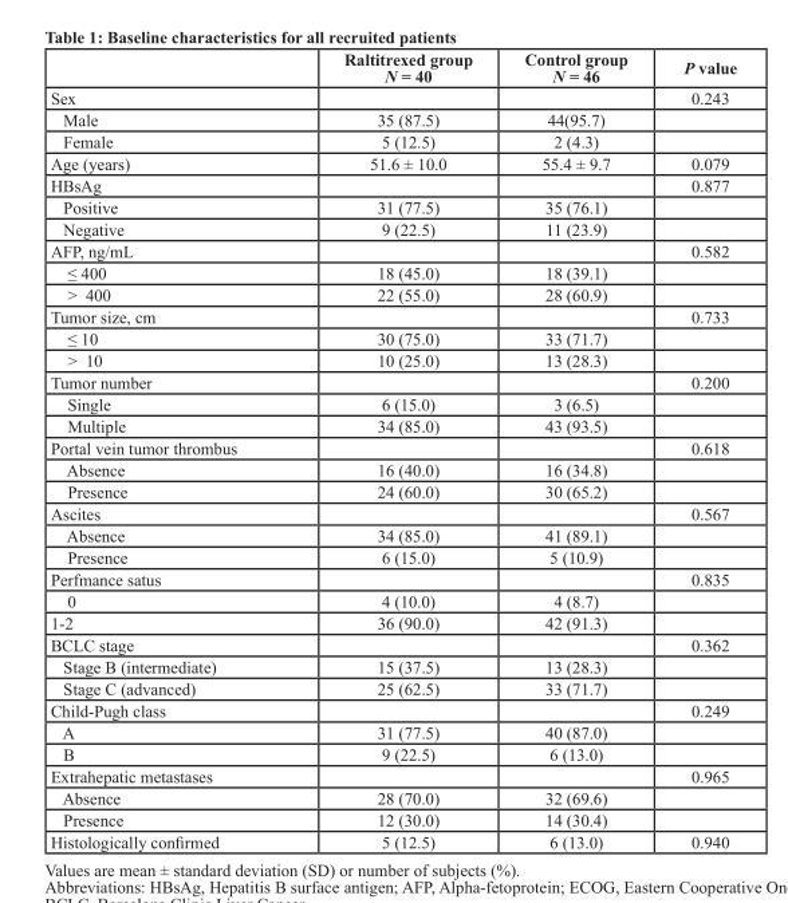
<table><thead><tr><td></td><td>Raltitrexed group N = 40</td><td>Control group N = 46</td><td>P value</td></tr></thead><tbody><tr><td>Sex</td><td></td><td></td><td>0.243</td></tr><tr><td>Male</td><td>35 (87.5)</td><td>44(95.7)</td><td></td></tr><tr><td>Female</td><td>5 (12.5)</td><td>2 (4.3)</td><td></td></tr><tr><td>Age (years)</td><td>51.6 ± 10.0</td><td>55.4 ± 9.7</td><td>0.079</td></tr><tr><td>HBsAg</td><td></td><td></td><td>0.877</td></tr><tr><td>Positive</td><td>31 (77.5)</td><td>35 (76.1)</td><td></td></tr><tr><td>Negative</td><td>9 (22.5)</td><td>11 (23.9)</td><td></td></tr><tr><td>AFP, ng/mL</td><td></td><td></td><td>0.582</td></tr><tr><td>≤ 400</td><td>18 (45.0)</td><td>18 (39.1)</td><td></td></tr><tr><td>&gt; 400</td><td>22 (55.0)</td><td>28 (60.9)</td><td></td></tr><tr><td>Tumor size, cm</td><td></td><td></td><td>0.733</td></tr><tr><td>≤ 10</td><td>30 (75.0)</td><td>33 (71.7)</td><td></td></tr><tr><td>&gt; 10</td><td>10 (25.0)</td><td>13 (28.3)</td><td></td></tr><tr><td>Tumor number</td><td></td><td></td><td>0.200</td></tr><tr><td>Single</td><td>6 (15.0)</td><td>3 (6.5)</td><td></td></tr><tr><td>Multiple</td><td>34 (85.0)</td><td>43 (93.5)</td><td></td></tr><tr><td>Portal vein tumor thrombus</td><td></td><td></td><td>0.618</td></tr><tr><td>Absence</td><td>16 (40.0)</td><td>16 (34.8)</td><td></td></tr><tr><td>Presence</td><td>24 (60.0)</td><td>30 (65.2)</td><td></td></tr><tr><td>Ascites</td><td></td><td></td><td>0.567</td></tr><tr><td>Absence</td><td>34 (85.0)</td><td>41 (89.1)</td><td></td></tr><tr><td>Presence</td><td>6 (15.0)</td><td>5 (10.9)</td><td></td></tr><tr><td>Perfmance satus</td><td></td><td></td><td>0.835</td></tr><tr><td>0</td><td>4 (10.0)</td><td>4 (8.7)</td><td></td></tr><tr><td>1-2</td><td>36 (90.0)</td><td>42 (91.3)</td><td></td></tr><tr><td>BCLC stage</td><td></td><td></td><td>0.362</td></tr><tr><td>Stage B (intermediate)</td><td>15 (37.5)</td><td>13 (28.3)</td><td></td></tr><tr><td>Stage C (advanced)</td><td>25 (62.5)</td><td>33 (71.7)</td><td></td></tr><tr><td>Child-Pugh class</td><td></td><td></td><td>0.249</td></tr><tr><td>A</td><td>31 (77.5)</td><td>40 (87.0)</td><td></td></tr><tr><td>B</td><td>9 (22.5)</td><td>6 (13.0)</td><td></td></tr><tr><td>Extrahepatic metastases</td><td></td><td></td><td>0.965</td></tr><tr><td>Absence</td><td>28 (70.0)</td><td>32 (69.6)</td><td></td></tr><tr><td>Presence</td><td>12 (30.0)</td><td>14 (30.4)</td><td></td></tr><tr><td>Histologically confirmed</td><td>5 (12.5)</td><td>6 (13.0)</td><td>0.940</td></tr></tbody></table>